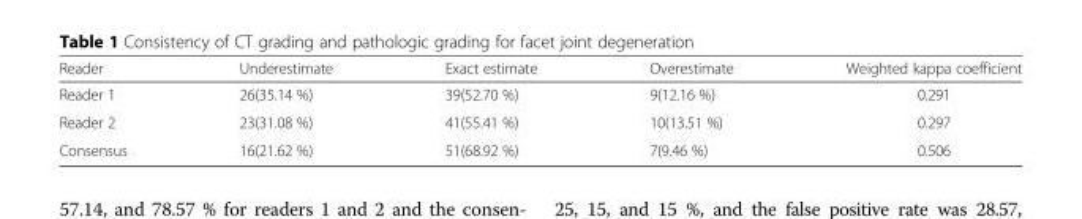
<table><thead><tr><td>Reader</td><td>Underestimate</td><td>Exact estimate</td><td>Overestimate</td><td>Weighted kappa coefficient</td></tr></thead><tbody><tr><td>Reader 1</td><td>26(35.14 %)</td><td>39(52.70 %)</td><td>9(12.16 %)</td><td>0.291</td></tr><tr><td>Reader 2</td><td>23(31.08 %)</td><td>41(55.41 %)</td><td>10(13.51 %)</td><td>0.297</td></tr><tr><td>Consensus</td><td>16(21.62 %)</td><td>51(68.92 %)</td><td>7(9.46 %)</td><td>0.506</td></tr></tbody></table>